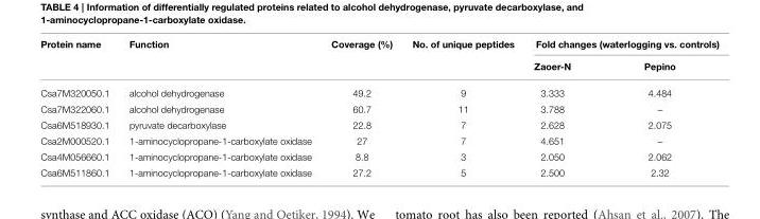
<table><thead><tr><td rowspan="2">Protein name</td><td rowspan="2">Function</td><td rowspan="2">Coverage (%)</td><td rowspan="2">No. of unique peptides</td><td colspan="2">Fold changes (waterlogging vs. controls)</td></tr><tr><td>Zaoer-N</td><td>Pepino</td></tr></thead><tbody><tr><td>Csa7M320050.1</td><td>alcohol dehydrogenase</td><td>49.2</td><td>9</td><td>3.333</td><td>4.484</td></tr><tr><td>Csa7M322060.1</td><td>alcohol dehydrogenase</td><td>60.7</td><td>11</td><td>3.788</td><td>–</td></tr><tr><td>Csa6M518930.1</td><td>pyruvate decarboxylase</td><td>22.8</td><td>7</td><td>2.628</td><td>2.075</td></tr><tr><td>Csa2M000520.1</td><td>1-aminocyclopropane-1-carboxylate oxidase</td><td>27</td><td>7</td><td>4.651</td><td>–</td></tr><tr><td>Csa4M056660.1</td><td>1-aminocyclopropane-1-carboxylate oxidase</td><td>8.8</td><td>3</td><td>2.050</td><td>2.062</td></tr><tr><td>Csa6M511860.1</td><td>1-aminocyclopropane-1-carboxylate oxidase</td><td>27.2</td><td>5</td><td>2.500</td><td>2.32</td></tr></tbody></table>